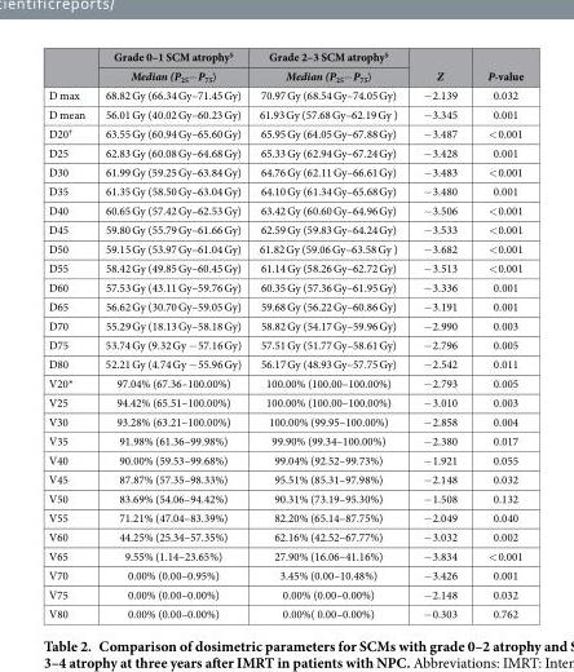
<table><thead><tr><td rowspan="2"></td><td rowspan="2">Grade 0–1 SCM atrophy<sup>§</sup> Median (P<sub>25</sub>− P<sub>75</sub>)</td><td rowspan="2">Grade 2–3 SCM atrophy<sup>§</sup> Median (P<sub>25</sub>− P<sub>75</sub>)</td><td rowspan="2">Z</td><td rowspan="2">P-value</td></tr><tr></tr></thead><tbody><tr><td>D max</td><td>68.82 Gy (66.34 Gy–71.45 Gy)</td><td>70.97 Gy (68.54 Gy–74.05 Gy)</td><td>− 2.139</td><td>0.032</td></tr><tr><td>D mean</td><td>56.01 Gy (40.02 Gy–60.23 Gy)</td><td>61.93 Gy (57.68 Gy–62.19 Gy )</td><td>− 3.345</td><td>0.001</td></tr><tr><td>D20<sup>†</sup></td><td>63.55 Gy (60.94 Gy–65.60 Gy)</td><td>65.95 Gy (64.05 Gy–67.88 Gy)</td><td>− 3.487</td><td>&lt; 0.001</td></tr><tr><td>D25</td><td>62.83 Gy (60.08 Gy–64.68 Gy)</td><td>65.33 Gy (62.94 Gy–67.24 Gy)</td><td>− 3.428</td><td>0.001</td></tr><tr><td>D30</td><td>61.99 Gy (59.25 Gy–63.84 Gy)</td><td>64.76 Gy (62.11 Gy–66.61 Gy)</td><td>− 3.483</td><td>&lt; 0.001</td></tr><tr><td>D35</td><td>61.35 Gy (58.50 Gy–63.04 Gy)</td><td>64.10 Gy (61.34 Gy–65.68 Gy)</td><td>− 3.480</td><td>0.001</td></tr><tr><td>D40</td><td>60.65 Gy (57.42 Gy–62.53 Gy)</td><td>63.42 Gy (60.60 Gy–64.96 Gy)</td><td>− 3.506</td><td>&lt; 0.001</td></tr><tr><td>D45</td><td>59.80 Gy (55.79 Gy–61.66 Gy)</td><td>62.59 Gy (59.83 Gy–64.24 Gy)</td><td>− 3.533</td><td>&lt; 0.001</td></tr><tr><td>D50</td><td>59.15 Gy (53.97 Gy–61.04 Gy)</td><td>61.82 Gy (59.06 Gy–63.58 Gy )</td><td>− 3.682</td><td>&lt; 0.001</td></tr><tr><td>D55</td><td>58.42 Gy (49.85 Gy–60.45 Gy)</td><td>61.14 Gy (58.26 Gy–62.72 Gy)</td><td>− 3.513</td><td>&lt; 0.001</td></tr><tr><td>D60</td><td>57.53 Gy (43.11 Gy–59.76 Gy)</td><td>60.35 Gy (57.36 Gy–61.95 Gy)</td><td>− 3.336</td><td>0.001</td></tr><tr><td>D65</td><td>56.62 Gy (30.70 Gy–59.05 Gy)</td><td>59.68 Gy (56.22 Gy–60.86 Gy)</td><td>− 3.191</td><td>0.001</td></tr><tr><td>D70</td><td>55.29 Gy (18.13 Gy–58.18 Gy)</td><td>58.82 Gy (54.17 Gy–59.96 Gy)</td><td>− 2.990</td><td>0.003</td></tr><tr><td>D75</td><td>53.74 Gy (9.32 Gy − 57.16 Gy)</td><td>57.51 Gy (51.77 Gy–58.61 Gy)</td><td>− 2.796</td><td>0.005</td></tr><tr><td>D80</td><td>52.21 Gy (4.74 Gy − 55.96 Gy)</td><td>56.17 Gy (48.93 Gy–57.75 Gy)</td><td>− 2.542</td><td>0.011</td></tr><tr><td>V20*</td><td>97.04% (67.36–100.00%)</td><td>100.00% (100.00–100.00%)</td><td>− 2.793</td><td>0.005</td></tr><tr><td>V25</td><td>94.42% (65.51–100.00%)</td><td>100.00% (100.00–100.00%)</td><td>− 3.010</td><td>0.003</td></tr><tr><td>V30</td><td>93.28% (63.21–100.00%)</td><td>100.00% (99.95–100.00%)</td><td>− 2.858</td><td>0.004</td></tr><tr><td>V35</td><td>91.98% (61.36–99.98%)</td><td>99.90% (99.34–100.00%)</td><td>− 2.380</td><td>0.017</td></tr><tr><td>V40</td><td>90.00% (59.53–99.68%)</td><td>99.04% (92.52–99.73%)</td><td>− 1.921</td><td>0.055</td></tr><tr><td>V45</td><td>87.87% (57.35–98.33%)</td><td>95.51% (85.31–97.98%)</td><td>− 2.148</td><td>0.032</td></tr><tr><td>V50</td><td>83.69% (54.06–94.42%)</td><td>90.31% (73.19–95.30%)</td><td>− 1.508</td><td>0.132</td></tr><tr><td>V55</td><td>71.21% (47.04–83.39%)</td><td>82.20% (65.14–87.75%)</td><td>− 2.049</td><td>0.040</td></tr><tr><td>V60</td><td>44.25% (25.34–57.35%)</td><td>62.16% (42.52–67.77%)</td><td>− 3.032</td><td>0.002</td></tr><tr><td>V65</td><td>9.55% (1.14–23.65%)</td><td>27.90% (16.06–41.16%)</td><td>− 3.834</td><td>&lt; 0.001</td></tr><tr><td>V70</td><td>0.00% (0.00–0.95%)</td><td>3.45% (0.00–10.48%)</td><td>− 3.426</td><td>0.001</td></tr><tr><td>V75</td><td>0.00% (0.00–0.00%)</td><td>0.00% (0.00–0.00%)</td><td>− 2.148</td><td>0.032</td></tr><tr><td>V80</td><td>0.00% (0.00–0.00%)</td><td>0.00%( 0.00–0.00%)</td><td>− 0.303</td><td>0.762</td></tr></tbody></table>